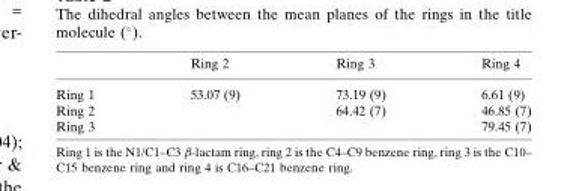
<table><thead><tr><td></td><td>Ring 2</td><td>Ring 3</td><td>Ring 4</td></tr></thead><tbody><tr><td>Ring 1</td><td>53.07 (9)</td><td>73.19 (9)</td><td>6.61 (9)</td></tr><tr><td>Ring 2</td><td></td><td>64.42 (7)</td><td>46.85 (7)</td></tr><tr><td>Ring 3</td><td></td><td></td><td>79.45 (7)</td></tr></tbody></table>